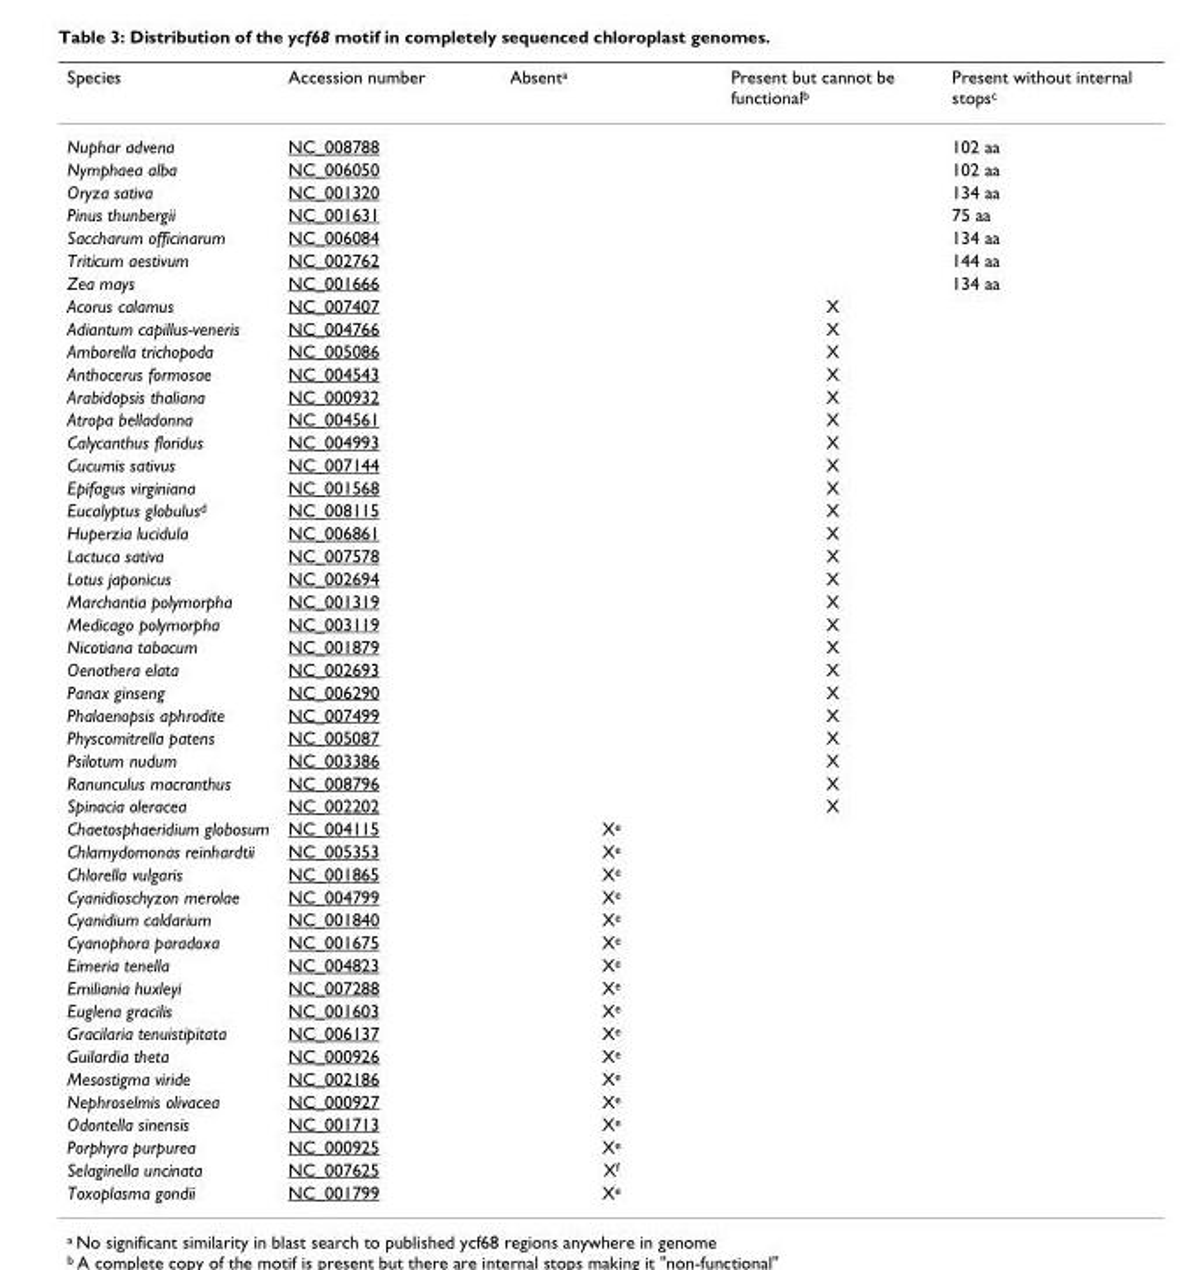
<table><thead><tr><td>Species</td><td>Accession number</td><td>Absent<sup>a</sup></td><td>Present but cannot be functional<sup>b</sup></td><td>Present without internal stops<sup>c</sup></td></tr></thead><tbody><tr><td>Nuphar advena</td><td>NC_008788</td><td></td><td></td><td>102 aa</td></tr><tr><td>Nymphaea alba</td><td>NC_006050</td><td></td><td></td><td>102 aa</td></tr><tr><td>Oryza sativa</td><td>NC_001320</td><td></td><td></td><td>134 aa</td></tr><tr><td>Pinus thunbergii</td><td>NC_001631</td><td></td><td></td><td>75 aa</td></tr><tr><td>Saccharum officinarum</td><td>NC_006084</td><td></td><td></td><td>134 aa</td></tr><tr><td>Triticum aestivum</td><td>NC_002762</td><td></td><td></td><td>144 aa</td></tr><tr><td>Zea mays</td><td>NC_001666</td><td></td><td></td><td>134 aa</td></tr><tr><td>Acorus calamus</td><td>NC_007407</td><td></td><td>X</td><td></td></tr><tr><td>Adiantum capillus-veneris</td><td>NC_004766</td><td></td><td>X</td><td></td></tr><tr><td>Amborella trichopoda</td><td>NC_005086</td><td></td><td>X</td><td></td></tr><tr><td>Anthocerus formosae</td><td>NC_004543</td><td></td><td>X</td><td></td></tr><tr><td>Arabidopsis thaliana</td><td>NC_000932</td><td></td><td>X</td><td></td></tr><tr><td>Atropa belladonna</td><td>NC_004561</td><td></td><td>X</td><td></td></tr><tr><td>Calycanthus floridus</td><td>NC_004993</td><td></td><td>X</td><td></td></tr><tr><td>Cucumis sativus</td><td>NC_007144</td><td></td><td>X</td><td></td></tr><tr><td>Epifagus virginiana</td><td>NC_001568</td><td></td><td>X</td><td></td></tr><tr><td>Eucalyptus globulus<sup>d</sup></td><td>NC_008115</td><td></td><td>X</td><td></td></tr><tr><td>Huperzia lucidula</td><td>NC_006861</td><td></td><td>X</td><td></td></tr><tr><td>Lactuca sativa</td><td>NC_007578</td><td></td><td>X</td><td></td></tr><tr><td>Lotus japonicus</td><td>NC_002694</td><td></td><td>X</td><td></td></tr><tr><td>Marchantia polymorpha</td><td>NC_001319</td><td></td><td>X</td><td></td></tr><tr><td>Medicago polymorpha</td><td>NC_003119</td><td></td><td>X</td><td></td></tr><tr><td>Nicotiana tabacum</td><td>NC_001879</td><td></td><td>X</td><td></td></tr><tr><td>Oenothera elata</td><td>NC_002693</td><td></td><td>X</td><td></td></tr><tr><td>Panax ginseng</td><td>NC_006290</td><td></td><td>X</td><td></td></tr><tr><td>Phalaenopsis aphrodite</td><td>NC_007499</td><td></td><td>X</td><td></td></tr><tr><td>Physcomitrella patens</td><td>NC_005087</td><td></td><td>X</td><td></td></tr><tr><td>Psilotum nudum</td><td>NC_003386</td><td></td><td>X</td><td></td></tr><tr><td>Ranunculus macranthus</td><td>NC_008796</td><td></td><td>X</td><td></td></tr><tr><td>Spinacia oleracea</td><td>NC_002202</td><td></td><td>X</td><td></td></tr><tr><td>Chaetosphaeridium globosum</td><td>NC_004115</td><td>X<sup>e</sup></td><td></td><td></td></tr><tr><td>Chlamydomonas reinhardtii</td><td>NC_005353</td><td>X<sup>e</sup></td><td></td><td></td></tr><tr><td>Chlorella vulgaris</td><td>NC_001865</td><td>X<sup>e</sup></td><td></td><td></td></tr><tr><td>Cyanidioschyzon merolae</td><td>NC_004799</td><td>X<sup>e</sup></td><td></td><td></td></tr><tr><td>Cyanidium caldarium</td><td>NC_001840</td><td>X<sup>e</sup></td><td></td><td></td></tr><tr><td>Cyanophora paradoxa</td><td>NC_001675</td><td>X<sup>e</sup></td><td></td><td></td></tr><tr><td>Eimeria tenella</td><td>NC_004823</td><td>X<sup>e</sup></td><td></td><td></td></tr><tr><td>Emiliania huxleyi</td><td>NC_007288</td><td>X<sup>e</sup></td><td></td><td></td></tr><tr><td>Euglena gracilis</td><td>NC_001603</td><td>X<sup>e</sup></td><td></td><td></td></tr><tr><td>Gracilaria tenuistipitata</td><td>NC_006137</td><td>X<sup>e</sup></td><td></td><td></td></tr><tr><td>Guilardia theta</td><td>NC_000926</td><td>X<sup>e</sup></td><td></td><td></td></tr><tr><td>Mesostigma viride</td><td>NC_002186</td><td>X<sup>e</sup></td><td></td><td></td></tr><tr><td>Nephroselmis olivacea</td><td>NC_000927</td><td>X<sup>e</sup></td><td></td><td></td></tr><tr><td>Odontella sinensis</td><td>NC_001713</td><td>X<sup>e</sup></td><td></td><td></td></tr><tr><td>Porphyra purpurea</td><td>NC_000925</td><td>X<sup>e</sup></td><td></td><td></td></tr><tr><td>Selaginella uncinata</td><td>NC_007625</td><td>X<sup>f</sup></td><td></td><td></td></tr><tr><td>Toxoplasma gondii</td><td>NC_001799</td><td>X<sup>e</sup></td><td></td><td></td></tr></tbody></table>